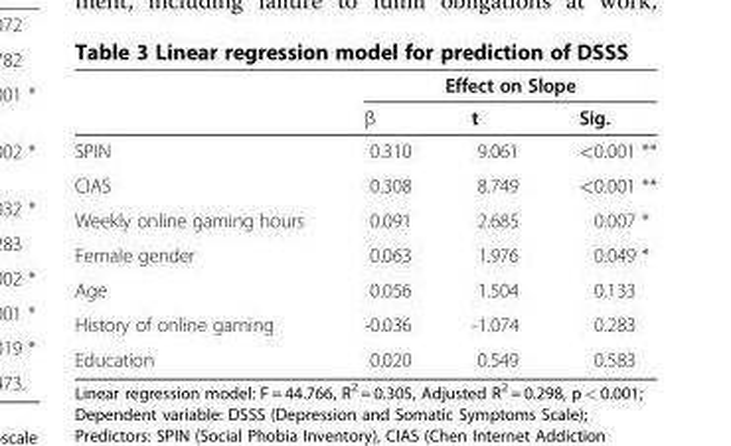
<table><thead><tr><td rowspan="2"></td><td colspan="3">Effect on Slope</td></tr><tr><td>β</td><td>t</td><td>Sig.</td></tr></thead><tbody><tr><td>SPIN</td><td>0.310</td><td>9.061</td><td>&lt;0.001 **</td></tr><tr><td>CIAS</td><td>0.308</td><td>8.749</td><td>&lt;0.001 **</td></tr><tr><td>Weekly online gaming hours</td><td>0.091</td><td>2.685</td><td>0.007 *</td></tr><tr><td>Female gender</td><td>0.063</td><td>1.976</td><td>0.049 *</td></tr><tr><td>Age</td><td>0.056</td><td>1.504</td><td>0.133</td></tr><tr><td>History of online gaming</td><td>-0.036</td><td>-1.074</td><td>0.283</td></tr><tr><td>Education</td><td>0.020</td><td>0.549</td><td>0.583</td></tr></tbody></table>